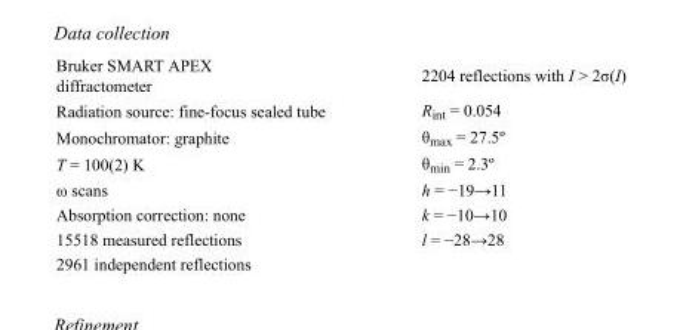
<table><tbody><tr><td>Bruker SMART APEX diffractometer</td><td>2204 reflections with I &gt; 2σ(I)</td></tr><tr><td>Radiation source: fine-focus sealed tube</td><td>R<sub>int</sub> = 0.054</td></tr><tr><td>Monochromator: graphite</td><td>θ<sub>max</sub> = 27.5º</td></tr><tr><td>T = 100(2) K</td><td>θ<sub>min</sub> = 2.3º</td></tr><tr><td>ω scans</td><td>h = −19→11</td></tr><tr><td>Absorption correction: none</td><td>k = −10→10</td></tr><tr><td>15518 measured reflections</td><td>l = −28→28</td></tr><tr><td>2961 independent reflections</td><td></td></tr></tbody></table>